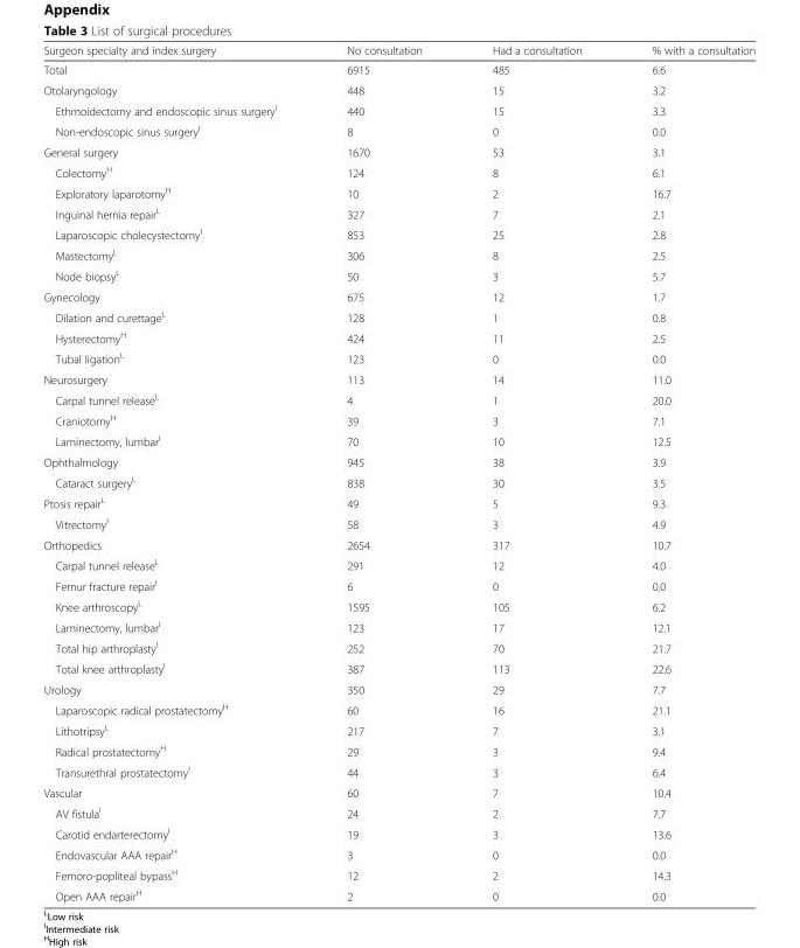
<table><thead><tr><td>Surgeon specialty and index surgery</td><td>No consultation</td><td>Had a consultation</td><td>% with a consultation</td></tr></thead><tbody><tr><td>Total</td><td>6915</td><td>485</td><td>6.6</td></tr><tr><td>Otolaryngology</td><td>448</td><td>15</td><td>3.2</td></tr><tr><td>Ethmoidectomy and endoscopic sinus surgery<sup>I</sup></td><td>440</td><td>15</td><td>3.3</td></tr><tr><td>Non-endoscopic sinus surgery<sup>I</sup></td><td>8</td><td>0</td><td>0.0</td></tr><tr><td>General surgery</td><td>1670</td><td>53</td><td>3.1</td></tr><tr><td>Colectomy<sup>H</sup></td><td>124</td><td>8</td><td>6.1</td></tr><tr><td>Exploratory laparotomy<sup>H</sup></td><td>10</td><td>2</td><td>16.7</td></tr><tr><td>Inguinal hernia repair<sup>L</sup></td><td>327</td><td>7</td><td>2.1</td></tr><tr><td>Laparoscopic cholecystectomy<sup>I</sup></td><td>853</td><td>25</td><td>2.8</td></tr><tr><td>Mastectomy<sup>L</sup></td><td>306</td><td>8</td><td>2.5</td></tr><tr><td>Node biopsy<sup>L</sup></td><td>50</td><td>3</td><td>5.7</td></tr><tr><td>Gynecology</td><td>675</td><td>12</td><td>1.7</td></tr><tr><td>Dilation and curettage<sup>L</sup></td><td>128</td><td>1</td><td>0.8</td></tr><tr><td>Hysterectomy<sup>H</sup></td><td>424</td><td>11</td><td>2.5</td></tr><tr><td>Tubal ligation<sup>L</sup></td><td>123</td><td>0</td><td>0.0</td></tr><tr><td>Neurosurgery</td><td>113</td><td>14</td><td>11.0</td></tr><tr><td>Carpal tunnel release<sup>L</sup></td><td>4</td><td>1</td><td>20.0</td></tr><tr><td>Craniotomy<sup>H</sup></td><td>39</td><td>3</td><td>7.1</td></tr><tr><td>Laminectomy, lumbar<sup>I</sup></td><td>70</td><td>10</td><td>12.5</td></tr><tr><td>Ophthalmology</td><td>945</td><td>38</td><td>3.9</td></tr><tr><td>Cataract surgery<sup>L</sup></td><td>838</td><td>30</td><td>3.5</td></tr><tr><td>Ptosis repair<sup>L</sup></td><td>49</td><td>5</td><td>9.3</td></tr><tr><td>Vitrectomy<sup>I</sup></td><td>58</td><td>3</td><td>4.9</td></tr><tr><td>Orthopedics</td><td>2654</td><td>317</td><td>10.7</td></tr><tr><td>Carpal tunnel release<sup>L</sup></td><td>291</td><td>12</td><td>4.0</td></tr><tr><td>Femur fracture repair<sup>I</sup></td><td>6</td><td>0</td><td>0.0</td></tr><tr><td>Knee arthroscopy<sup>L</sup></td><td>1595</td><td>105</td><td>6.2</td></tr><tr><td>Laminectomy, lumbar<sup>I</sup></td><td>123</td><td>17</td><td>12.1</td></tr><tr><td>Total hip arthroplasty<sup>I</sup></td><td>252</td><td>70</td><td>21.7</td></tr><tr><td>Total knee arthroplasty<sup>I</sup></td><td>387</td><td>113</td><td>22.6</td></tr><tr><td>Urology</td><td>350</td><td>29</td><td>7.7</td></tr><tr><td>Laparoscopic radical prostatectomy<sup>H</sup></td><td>60</td><td>16</td><td>21.1</td></tr><tr><td>Lithotripsy<sup>L</sup></td><td>217</td><td>7</td><td>3.1</td></tr><tr><td>Radical prostatectomy<sup>H</sup></td><td>29</td><td>3</td><td>9.4</td></tr><tr><td>Transurethral prostatectomy<sup>I</sup></td><td>44</td><td>3</td><td>6.4</td></tr><tr><td>Vascular</td><td>60</td><td>7</td><td>10.4</td></tr><tr><td>AV fistula<sup>I</sup></td><td>24</td><td>2</td><td>7.7</td></tr><tr><td>Carotid endarterectomy<sup>I</sup></td><td>19</td><td>3</td><td>13.6</td></tr><tr><td>Endovascular AAA repair<sup>H</sup></td><td>3</td><td>0</td><td>0.0</td></tr><tr><td>Femoro-popliteal bypass<sup>H</sup></td><td>12</td><td>2</td><td>14.3</td></tr><tr><td>Open AAA repair<sup>H</sup></td><td>2</td><td>0</td><td>0.0</td></tr></tbody></table>